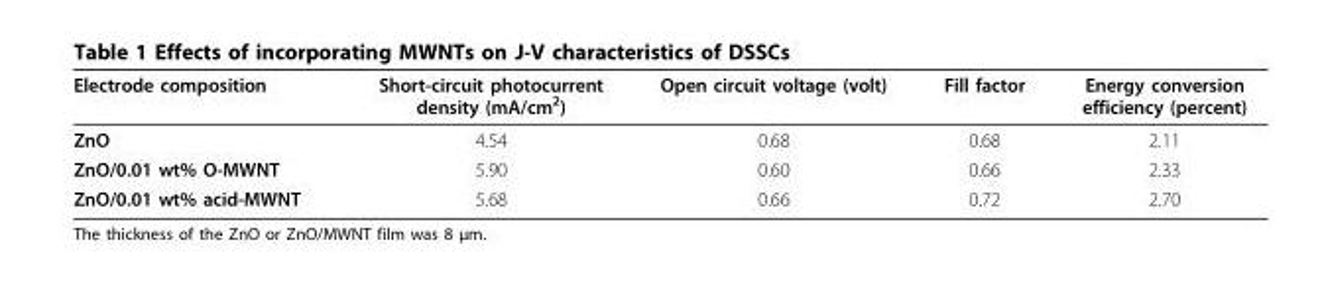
<table><thead><tr><td>Electrode composition</td><td>Short-circuit photocurrent density (mA/cm<sup>2</sup>)</td><td>Open circuit voltage (volt)</td><td>Fill factor</td><td>Energy conversion efficiency (percent)</td></tr></thead><tbody><tr><td>ZnO</td><td>4.54</td><td>0.68</td><td>0.68</td><td>2.11</td></tr><tr><td>ZnO/0.01 wt% O-MWNT</td><td>5.90</td><td>0.60</td><td>0.66</td><td>2.33</td></tr><tr><td>ZnO/0.01 wt% acid-MWNT</td><td>5.68</td><td>0.66</td><td>0.72</td><td>2.70</td></tr></tbody></table>